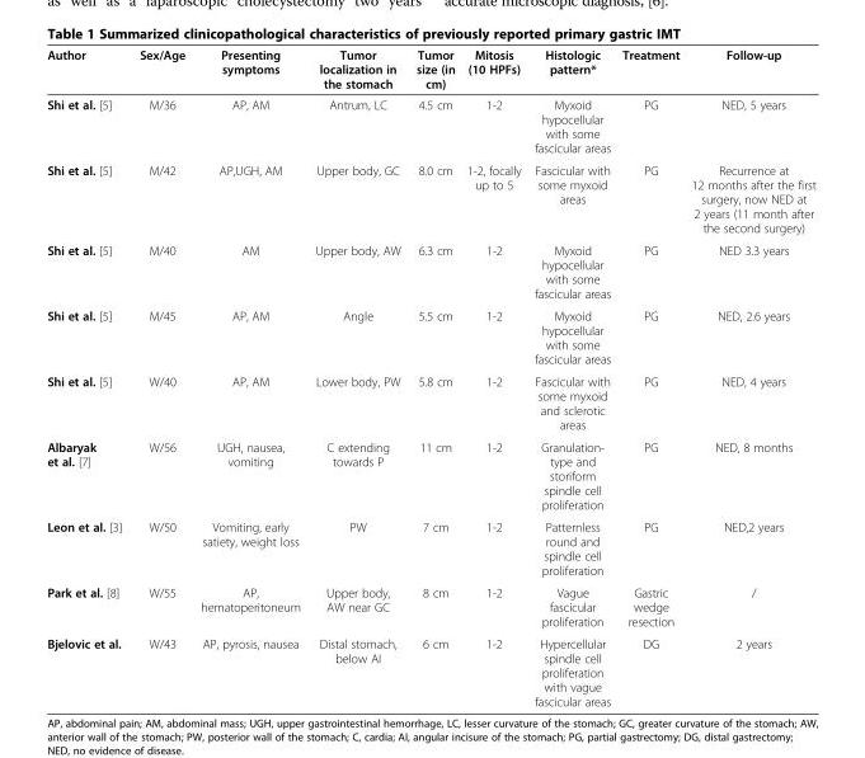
<table><thead><tr><td>Author</td><td>Sex/Age</td><td>Presenting symptoms</td><td>Tumor localization in the stomach</td><td>Tumor size (in cm)</td><td>Mitosis (10 HPFs)</td><td>Histologic pattern*</td><td>Treatment</td><td>Follow-up</td></tr></thead><tbody><tr><td>Shi et al. [5]</td><td>M/36</td><td>AP, AM</td><td>Antrum, LC</td><td>4.5 cm</td><td>1-2</td><td>Myxoid hypocellular with some fascicular areas</td><td>PG</td><td>NED, 5 years</td></tr><tr><td>Shi et al. [5]</td><td>M/42</td><td>AP,UGH, AM</td><td>Upper body, GC</td><td>8.0 cm</td><td>1-2, focally up to 5</td><td>Fascicular with some myxoid areas</td><td>PG</td><td>Recurrence at 12 months after the first surgery, now NED at 2 years (11 month after the second surgery)</td></tr><tr><td>Shi et al. [5]</td><td>M/40</td><td>AM</td><td>Upper body, AW</td><td>6.3 cm</td><td>1-2</td><td>Myxoid hypocellular with some fascicular areas</td><td>PG</td><td>NED 3.3 years</td></tr><tr><td>Shi et al. [5]</td><td>M/45</td><td>AP, AM</td><td>Angle</td><td>5.5 cm</td><td>1-2</td><td>Myxoid hypocellular with some fascicular areas</td><td>PG</td><td>NED, 2.6 years</td></tr><tr><td>Shi et al. [5]</td><td>W/40</td><td>AP, AM</td><td>Lower body, PW</td><td>5.8 cm</td><td>1-2</td><td>Fascicular with some myxoid and sclerotic areas</td><td>PG</td><td>NED, 4 years</td></tr><tr><td>Albaryak et al. [7]</td><td>W/56</td><td>UGH, nausea, vomiting</td><td>C extending towards P</td><td>11 cm</td><td>1-2</td><td>Granulation- type and storiform spindle cell proliferation</td><td>PG</td><td>NED, 8 months</td></tr><tr><td>Leon et al. [3]</td><td>W/50</td><td>Vomiting, early satiety, weight loss</td><td>PW</td><td>7 cm</td><td>1-2</td><td>Patternless round and spindle cell proliferation</td><td>PG</td><td>NED,2 years</td></tr><tr><td>Park et al. [8]</td><td>W/55</td><td>AP, hematoperitoneum</td><td>Upper body, AW near GC</td><td>8 cm</td><td>1-2</td><td>Vague fascicular proliferation</td><td>Gastric wedge resection</td><td>/</td></tr><tr><td>Bjelovic et al.</td><td>W/43</td><td>AP, pyrosis, nausea</td><td>Distal stomach, below AI</td><td>6 cm</td><td>1-2</td><td>Hypercellular spindle cell proliferation with vague fascicular areas</td><td>DG</td><td>2 years</td></tr></tbody></table>